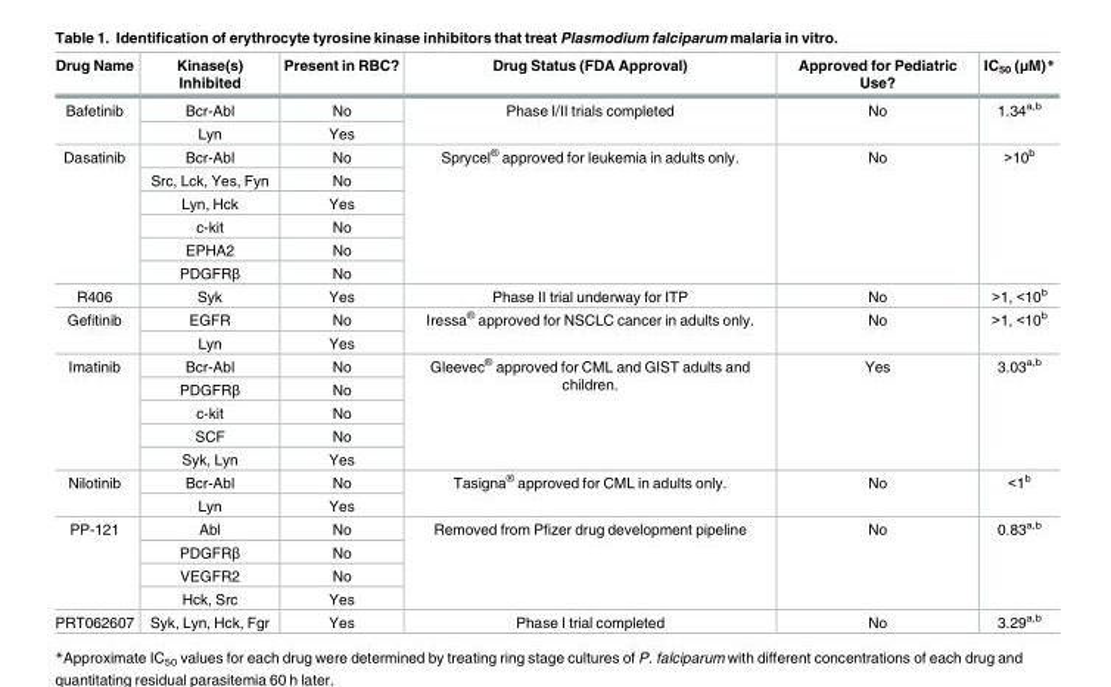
<table><thead><tr><td>Drug Name</td><td>Kinase(s) Inhibited</td><td>Present in RBC?</td><td>Drug Status (FDA Approval)</td><td>Approved for Pediatric Use?</td><td>IC<sub>50</sub> (μM)*</td></tr></thead><tbody><tr><td rowspan="2">Bafetinib</td><td>Bcr-Abl</td><td>No</td><td rowspan="2">Phase I/II trials completed</td><td rowspan="2">No</td><td rowspan="2">1.34<sup>a,b</sup></td></tr><tr><td>Lyn</td><td>Yes</td></tr><tr><td rowspan="6">Dasatinib</td><td>Bcr-Abl</td><td>No</td><td rowspan="6">Sprycel<sup>®</sup> approved for leukemia in adults only.</td><td rowspan="6">No</td><td rowspan="6">&gt;10<sup>b</sup></td></tr><tr><td>Src, Lck, Yes, Fyn</td><td>No</td></tr><tr><td>Lyn, Hck</td><td>Yes</td></tr><tr><td>c-kit</td><td>No</td></tr><tr><td>EPHA2</td><td>No</td></tr><tr><td>PDGFRβ</td><td>No</td></tr><tr><td>R406</td><td>Syk</td><td>Yes</td><td>Phase II trial underway for ITP</td><td>No</td><td>&gt;1, &lt;10<sup>b</sup></td></tr><tr><td rowspan="2">Gefitinib</td><td>EGFR</td><td>No</td><td rowspan="2">Iressa<sup>®</sup> approved for NSCLC cancer in adults only.</td><td rowspan="2">No</td><td rowspan="2">&gt;1, &lt;10<sup>b</sup></td></tr><tr><td>Lyn</td><td>Yes</td></tr><tr><td rowspan="5">Imatinib</td><td>Bcr-Abl</td><td>No</td><td rowspan="5">Gleevec<sup>®</sup> approved for CML and GIST adults and children.</td><td rowspan="5">Yes</td><td rowspan="5">3.03<sup>a,b</sup></td></tr><tr><td>PDGFRβ</td><td>No</td></tr><tr><td>c-kit</td><td>No</td></tr><tr><td>SCF</td><td>No</td></tr><tr><td>Syk, Lyn</td><td>Yes</td></tr><tr><td rowspan="2">Nilotinib</td><td>Bcr-Abl</td><td>No</td><td rowspan="2">Tasigna<sup>®</sup> approved for CML in adults only.</td><td rowspan="2">No</td><td rowspan="2">&lt;1<sup>b</sup></td></tr><tr><td>Lyn</td><td>Yes</td></tr><tr><td rowspan="4">PP-121</td><td>Abl</td><td>No</td><td rowspan="4">Removed from Pfizer drug development pipeline</td><td rowspan="4">No</td><td rowspan="4">0.83<sup>a,b</sup></td></tr><tr><td>PDGFRβ</td><td>No</td></tr><tr><td>VEGFR2</td><td>No</td></tr><tr><td>Hck, Src</td><td>Yes</td></tr><tr><td>PRT062607</td><td>Syk, Lyn, Hck, Fgr</td><td>Yes</td><td>Phase I trial completed</td><td>No</td><td>3.29<sup>a,b</sup></td></tr></tbody></table>